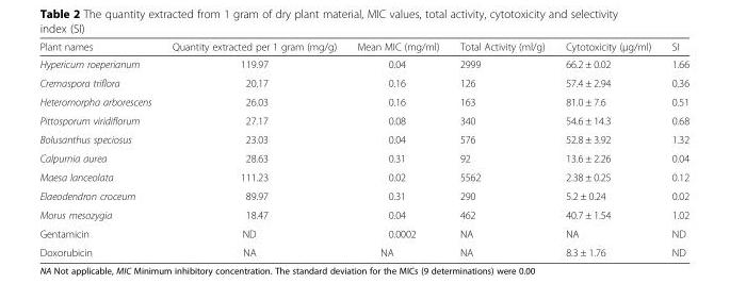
<table><thead><tr><td>Plant names</td><td>Quantity extracted per 1 gram (mg/g)</td><td>Mean MIC (mg/ml)</td><td>Total Activity (ml/g)</td><td>Cytotoxicity (μg/ml)</td><td>SI</td></tr></thead><tbody><tr><td>Hypericum roeperianum</td><td>119.97</td><td>0.04</td><td>2999</td><td>66.2 ± 0.02</td><td>1.66</td></tr><tr><td>Cremaspora triflora</td><td>20.17</td><td>0.16</td><td>126</td><td>57.4 ± 2.94</td><td>0.36</td></tr><tr><td>Heteromorpha arborescens</td><td>26.03</td><td>0.16</td><td>163</td><td>81.0 ± 7.6</td><td>0.51</td></tr><tr><td>Pittosporum viridiflorum</td><td>27.17</td><td>0.08</td><td>340</td><td>54.6 ± 14.3</td><td>0.68</td></tr><tr><td>Bolusanthus speciosus</td><td>23.03</td><td>0.04</td><td>576</td><td>52.8 ± 3.92</td><td>1.32</td></tr><tr><td>Calpurnia aurea</td><td>28.63</td><td>0.31</td><td>92</td><td>13.6 ± 2.26</td><td>0.04</td></tr><tr><td>Maesa lanceolata</td><td>111.23</td><td>0.02</td><td>5562</td><td>2.38 ± 0.25</td><td>0.12</td></tr><tr><td>Elaeodendron croceum</td><td>89.97</td><td>0.31</td><td>290</td><td>5.2 ± 0.24</td><td>0.02</td></tr><tr><td>Morus mesozygia</td><td>18.47</td><td>0.04</td><td>462</td><td>40.7 ± 1.54</td><td>1.02</td></tr><tr><td>Gentamicin</td><td>ND</td><td>0.0002</td><td>NA</td><td>NA</td><td>ND</td></tr><tr><td>Doxorubicin</td><td>NA</td><td>NA</td><td>NA</td><td>8.3 ± 1.76</td><td>ND</td></tr></tbody></table>